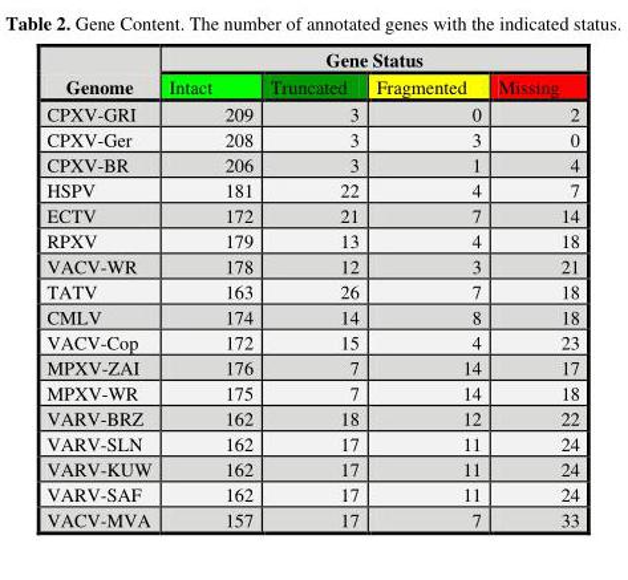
<table><thead><tr><td rowspan="2">Genome</td><td colspan="4">Gene Status</td></tr><tr><td>Intact</td><td>Truncated</td><td>Fragmented</td><td>Missing</td></tr></thead><tbody><tr><td>CPXV-GRI</td><td>209</td><td>3</td><td>0</td><td>2</td></tr><tr><td>CPXV-Ger</td><td>208</td><td>3</td><td>3</td><td>0</td></tr><tr><td>CPXV-BR</td><td>206</td><td>3</td><td>1</td><td>4</td></tr><tr><td>HSPV</td><td>181</td><td>22</td><td>4</td><td>7</td></tr><tr><td>ECTV</td><td>172</td><td>21</td><td>7</td><td>14</td></tr><tr><td>RPXV</td><td>179</td><td>13</td><td>4</td><td>18</td></tr><tr><td>VACV-WR</td><td>178</td><td>12</td><td>3</td><td>21</td></tr><tr><td>TATV</td><td>163</td><td>26</td><td>7</td><td>18</td></tr><tr><td>CMLV</td><td>174</td><td>14</td><td>8</td><td>18</td></tr><tr><td>VACV-Cop</td><td>172</td><td>15</td><td>4</td><td>23</td></tr><tr><td>MPXV-ZAI</td><td>176</td><td>7</td><td>14</td><td>17</td></tr><tr><td>MPXV-WR</td><td>175</td><td>7</td><td>14</td><td>18</td></tr><tr><td>VARV-BRZ</td><td>162</td><td>18</td><td>12</td><td>22</td></tr><tr><td>VARV-SLN</td><td>162</td><td>17</td><td>11</td><td>24</td></tr><tr><td>VARV-KUW</td><td>162</td><td>17</td><td>11</td><td>24</td></tr><tr><td>VARV-SAF</td><td>162</td><td>17</td><td>11</td><td>24</td></tr><tr><td>VACV-MVA</td><td>157</td><td>17</td><td>7</td><td>33</td></tr></tbody></table>